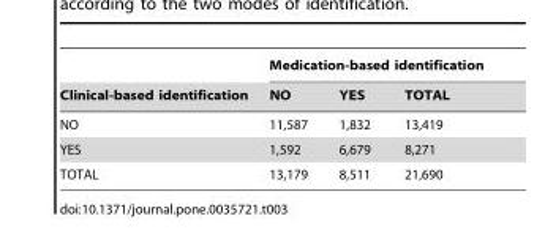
<table><thead><tr><td rowspan="2">Clinical-based identification</td><td colspan="3">Medication-based identification</td></tr><tr><td>NO</td><td>YES</td><td>TOTAL</td></tr></thead><tbody><tr><td>NO</td><td>11,587</td><td>1,832</td><td>13,419</td></tr><tr><td>YES</td><td>1,592</td><td>6,679</td><td>8,271</td></tr><tr><td>TOTAL</td><td>13,179</td><td>8,511</td><td>21,690</td></tr></tbody></table>